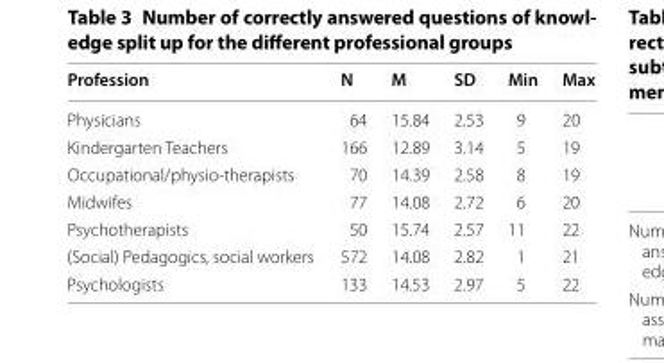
<table><thead><tr><td>Profession</td><td>N</td><td>M</td><td>SD</td><td>Min</td><td>Max</td></tr></thead><tbody><tr><td>Physicians</td><td>64</td><td>15.84</td><td>2.53</td><td>9</td><td>20</td></tr><tr><td>Kindergarten Teachers</td><td>166</td><td>12.89</td><td>3.14</td><td>5</td><td>19</td></tr><tr><td>Occupational/physio-therapists</td><td>70</td><td>14.39</td><td>2.58</td><td>8</td><td>19</td></tr><tr><td>Midwifes</td><td>77</td><td>14.08</td><td>2.72</td><td>6</td><td>20</td></tr><tr><td>Psychotherapists</td><td>50</td><td>15.74</td><td>2.57</td><td>11</td><td>22</td></tr><tr><td>(Social) Pedagogics, social workers</td><td>572</td><td>14.08</td><td>2.82</td><td>1</td><td>21</td></tr><tr><td>Psychologists</td><td>133</td><td>14.53</td><td>2.97</td><td>5</td><td>22</td></tr></tbody></table>